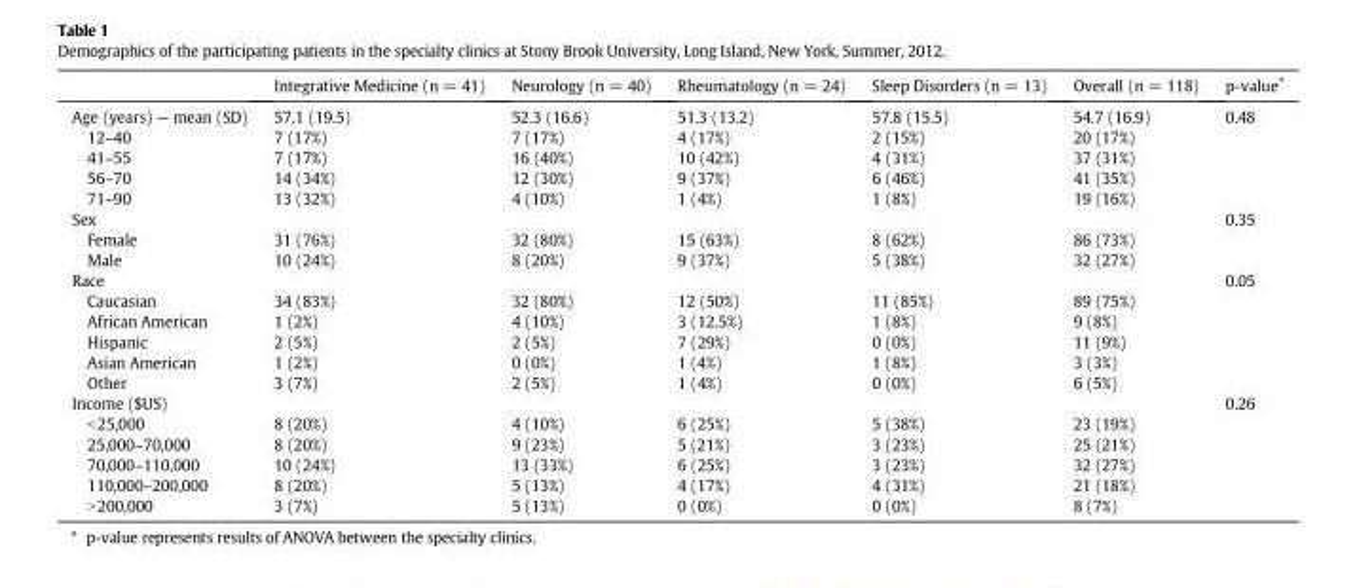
<table><thead><tr><td></td><td>Integrative Medicine (n = 41)</td><td>Neurology (n = 40)</td><td>Rheumatology (n = 24)</td><td>Sleep Disorders (n = 13)</td><td>Overall (n = 118)</td><td>p-value⁎</td></tr></thead><tbody><tr><td>Age (years) — mean (SD)</td><td>57.1 (19.5)</td><td>52.3 (16.6)</td><td>51.3 (13.2)</td><td>57.8 (15.5)</td><td>54.7 (16.9)</td><td>0.48</td></tr><tr><td>12–40</td><td>7 (17%)</td><td>7 (17%)</td><td>4 (17%)</td><td>2 (15%)</td><td>20 (17%)</td><td></td></tr><tr><td>41–55</td><td>7 (17%)</td><td>16 (40%)</td><td>10 (42%)</td><td>4 (31%)</td><td>37 (31%)</td><td></td></tr><tr><td>56–70</td><td>14 (34%)</td><td>12 (30%)</td><td>9 (37%)</td><td>6 (46%)</td><td>41 (35%)</td><td></td></tr><tr><td>71–90</td><td>13 (32%)</td><td>4 (10%)</td><td>1 (4%)</td><td>1 (8%)</td><td>19 (16%)</td><td></td></tr><tr><td>Sex</td><td></td><td></td><td></td><td></td><td></td><td>0.35</td></tr><tr><td>Female</td><td>31 (76%)</td><td>32 (80%)</td><td>15 (63%)</td><td>8 (62%)</td><td>86 (73%)</td><td></td></tr><tr><td>Male</td><td>10 (24%)</td><td>8 (20%)</td><td>9 (37%)</td><td>5 (38%)</td><td>32 (27%)</td><td></td></tr><tr><td>Race</td><td></td><td></td><td></td><td></td><td></td><td>0.05</td></tr><tr><td>Caucasian</td><td>34 (83%)</td><td>32 (80%)</td><td>12 (50%)</td><td>11 (85%)</td><td>89 (75%)</td><td></td></tr><tr><td>African American</td><td>1 (2%)</td><td>4 (10%)</td><td>3 (12.5%)</td><td>1 (8%)</td><td>9 (8%)</td><td></td></tr><tr><td>Hispanic</td><td>2 (5%)</td><td>2 (5%)</td><td>7 (29%)</td><td>0 (0%)</td><td>11 (9%)</td><td></td></tr><tr><td>Asian American</td><td>1 (2%)</td><td>0 (0%)</td><td>1 (4%)</td><td>1 (8%)</td><td>3 (3%)</td><td></td></tr><tr><td>Other</td><td>3 (7%)</td><td>2 (5%)</td><td>1 (4%)</td><td>0 (0%)</td><td>6 (5%)</td><td></td></tr><tr><td>Income ($US)</td><td></td><td></td><td></td><td></td><td></td><td>0.26</td></tr><tr><td>&lt;25,000</td><td>8 (20%)</td><td>4 (10%)</td><td>6 (25%)</td><td>5 (38%)</td><td>23 (19%)</td><td></td></tr><tr><td>25,000–70,000</td><td>8 (20%)</td><td>9 (23%)</td><td>5 (21%)</td><td>3 (23%)</td><td>25 (21%)</td><td></td></tr><tr><td>70,000–110,000</td><td>10 (24%)</td><td>13 (33%)</td><td>6 (25%)</td><td>3 (23%)</td><td>32 (27%)</td><td></td></tr><tr><td>110,000–200,000</td><td>8 (20%)</td><td>5 (13%)</td><td>4 (17%)</td><td>4 (31%)</td><td>21 (18%)</td><td></td></tr><tr><td>&gt;200,000</td><td>3 (7%)</td><td>5 (13%)</td><td>0 (0%)</td><td>0 (0%)</td><td>8 (7%)</td><td></td></tr></tbody></table>